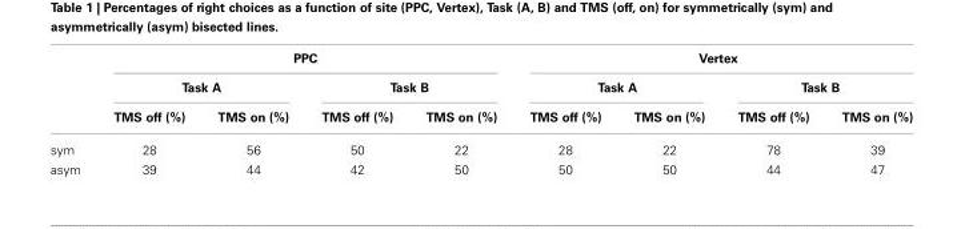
<table><thead><tr><td rowspan="3"></td><td colspan="4">PPC</td><td colspan="4">Vertex</td></tr><tr><td colspan="2">Task A</td><td colspan="2">Task B</td><td colspan="2">Task A</td><td colspan="2">Task B</td></tr><tr><td>TMS off (%)</td><td>TMS on (%)</td><td>TMS off (%)</td><td>TMS on (%)</td><td>TMS off (%)</td><td>TMS on (%)</td><td>TMS off (%)</td><td>TMS on (%)</td></tr></thead><tbody><tr><td>sym</td><td>28</td><td>56</td><td>50</td><td>22</td><td>28</td><td>22</td><td>78</td><td>39</td></tr><tr><td>asym</td><td>39</td><td>44</td><td>42</td><td>50</td><td>50</td><td>50</td><td>44</td><td>47</td></tr></tbody></table>